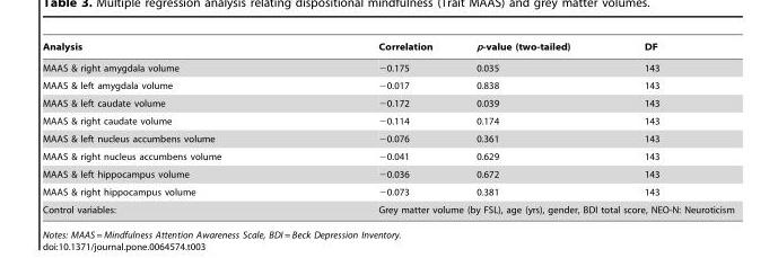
<table><thead><tr><td>Analysis</td><td>Correlation</td><td>p-value (two-tailed)</td><td>DF</td></tr></thead><tbody><tr><td>MAAS &amp; right amygdala volume</td><td>−0.175</td><td>0.035</td><td>143</td></tr><tr><td>MAAS &amp; left amygdala volume</td><td>−0.017</td><td>0.838</td><td>143</td></tr><tr><td>MAAS &amp; left caudate volume</td><td>−0.172</td><td>0.039</td><td>143</td></tr><tr><td>MAAS &amp; right caudate volume</td><td>−0.114</td><td>0.174</td><td>143</td></tr><tr><td>MAAS &amp; left nucleus accumbens volume</td><td>−0.076</td><td>0.361</td><td>143</td></tr><tr><td>MAAS &amp; right nucleus accumbens volume</td><td>−0.041</td><td>0.629</td><td>143</td></tr><tr><td>MAAS &amp; left hippocampus volume</td><td>−0.036</td><td>0.672</td><td>143</td></tr><tr><td>MAAS &amp; right hippocampus volume</td><td>−0.073</td><td>0.381</td><td>143</td></tr><tr><td>Control variables:</td><td colspan="3">Grey matter volume (by FSL), age (yrs), gender, BDI total score, NEO-N: Neuroticism</td></tr></tbody></table>